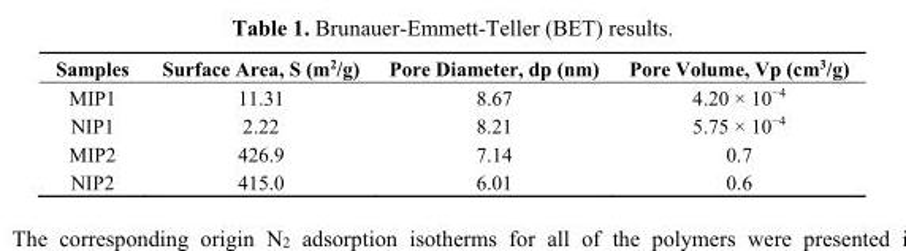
<table><thead><tr><td>Samples</td><td>Surface Area, S (m<sup>2</sup>/g)</td><td>Pore Diameter, dp (nm)</td><td>Pore Volume, Vp (cm<sup>3</sup>/g)</td></tr></thead><tbody><tr><td>MIP1</td><td>11.31</td><td>8.67</td><td>4.20 × 10<sup>−4</sup></td></tr><tr><td>NIP1</td><td>2.22</td><td>8.21</td><td>5.75 × 10<sup>−4</sup></td></tr><tr><td>MIP2</td><td>426.9</td><td>7.14</td><td>0.7</td></tr><tr><td>NIP2</td><td>415.0</td><td>6.01</td><td>0.6</td></tr></tbody></table>